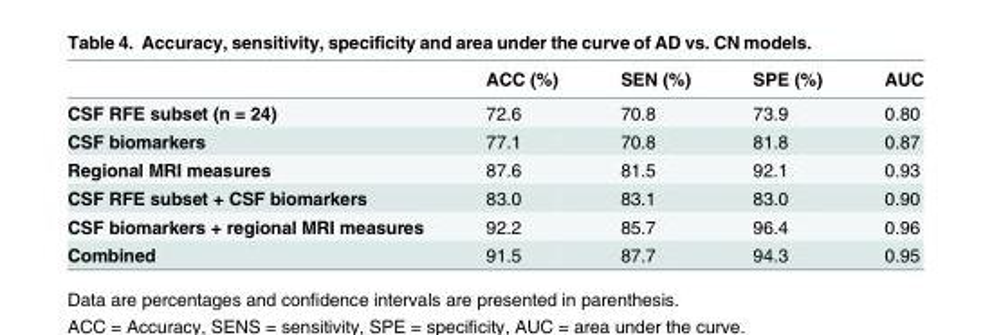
<table><thead><tr><td></td><td>ACC (%)</td><td>SEN (%)</td><td>SPE (%)</td><td>AUC</td></tr></thead><tbody><tr><td>CSF RFE subset (n = 24)</td><td>72.6</td><td>70.8</td><td>73.9</td><td>0.80</td></tr><tr><td>CSF biomarkers</td><td>77.1</td><td>70.8</td><td>81.8</td><td>0.87</td></tr><tr><td>Regional MRI measures</td><td>87.6</td><td>81.5</td><td>92.1</td><td>0.93</td></tr><tr><td>CSF RFE subset + CSF biomarkers</td><td>83.0</td><td>83.1</td><td>83.0</td><td>0.90</td></tr><tr><td>CSF biomarkers + regional MRI measures</td><td>92.2</td><td>85.7</td><td>96.4</td><td>0.96</td></tr><tr><td>Combined</td><td>91.5</td><td>87.7</td><td>94.3</td><td>0.95</td></tr></tbody></table>